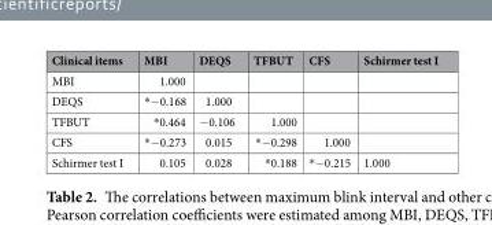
<table><thead><tr><td>Clinical items</td><td>MBI</td><td>DEQS</td><td>TFBUT</td><td>CFS</td><td>Schirmer test I</td></tr></thead><tbody><tr><td>MBI</td><td>1.000</td><td></td><td></td><td></td><td></td></tr><tr><td>DEQS</td><td>*−0.168</td><td>1.000</td><td></td><td></td><td></td></tr><tr><td>TFBUT</td><td>*0.464</td><td>−0.106</td><td>1.000</td><td></td><td></td></tr><tr><td>CFS</td><td>*−0.273</td><td>0.015</td><td>*−0.298</td><td>1.000</td><td></td></tr><tr><td>Schirmer test I</td><td>0.105</td><td>0.028</td><td>*0.188</td><td>*−0.215</td><td>1.000</td></tr></tbody></table>